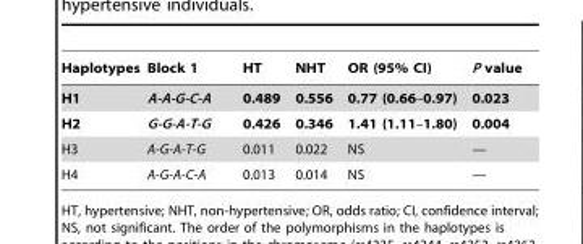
<table><thead><tr><td>Haplotypes</td><td>Block 1</td><td>HT</td><td>NHT</td><td>OR (95% CI)</td><td>P value</td></tr></thead><tbody><tr><td>H1</td><td>A-A-G-C-A</td><td>0.489</td><td>0.556</td><td>0.77 (0.66–0.97)</td><td>0.023</td></tr><tr><td>H2</td><td>G-G-A-T-G</td><td>0.426</td><td>0.346</td><td>1.41 (1.11–1.80)</td><td>0.004</td></tr><tr><td>H3</td><td>A-G-A-T-G</td><td>0.011</td><td>0.022</td><td>NS</td><td>—</td></tr><tr><td>H4</td><td>A-G-A-C-A</td><td>0.013</td><td>0.014</td><td>NS</td><td>—</td></tr></tbody></table>